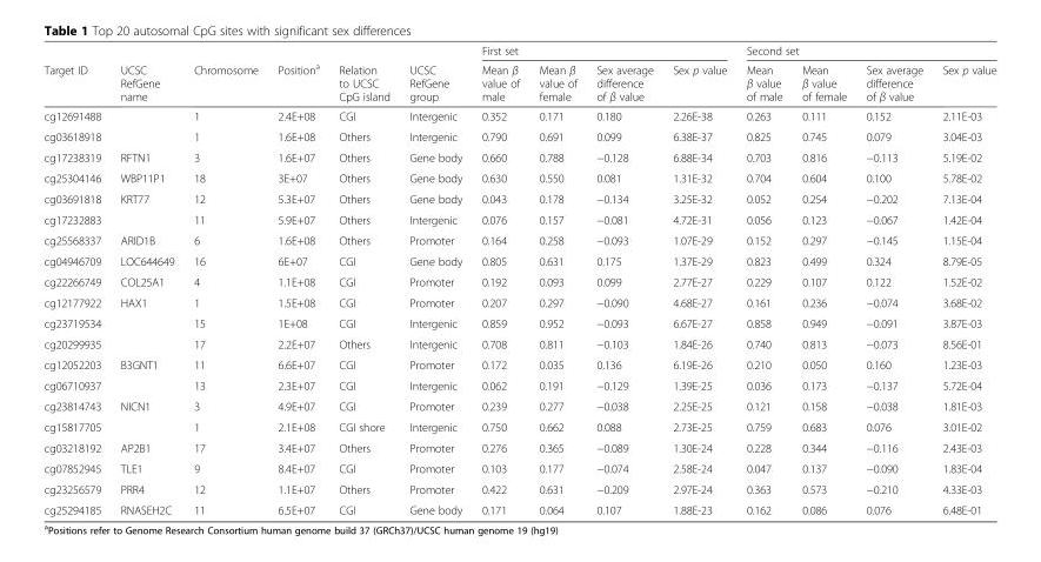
<table><thead><tr><td rowspan="2">Target ID</td><td rowspan="2">UCSC RefGene name</td><td rowspan="2">Chromosome</td><td rowspan="2">Position<sup>a</sup></td><td rowspan="2">Relation to UCSC CpG island</td><td rowspan="2">UCSC RefGene group</td><td colspan="4">First set</td><td colspan="4">Second set</td></tr><tr><td>Mean β value of male</td><td>Mean β value of female</td><td>Sex average difference of β value</td><td>Sex p value</td><td>Mean β value of male</td><td>Mean β value of female</td><td>Sex average difference of β value</td><td>Sex p value</td></tr></thead><tbody><tr><td>cg12691488</td><td></td><td>1</td><td>2.4E+08</td><td>CGI</td><td>Intergenic</td><td>0.352</td><td>0.171</td><td>0.180</td><td>2.26E-38</td><td>0.263</td><td>0.111</td><td>0.152</td><td>2.11E-03</td></tr><tr><td>cg03618918</td><td></td><td>1</td><td>1.6E+08</td><td>Others</td><td>Intergenic</td><td>0.790</td><td>0.691</td><td>0.099</td><td>6.38E-37</td><td>0.825</td><td>0.745</td><td>0.079</td><td>3.04E-03</td></tr><tr><td>cg17238319</td><td>RFTN1</td><td>3</td><td>1.6E+07</td><td>Others</td><td>Gene body</td><td>0.660</td><td>0.788</td><td>−0.128</td><td>6.88E-34</td><td>0.703</td><td>0.816</td><td>−0.113</td><td>5.19E-02</td></tr><tr><td>cg25304146</td><td>WBP11P1</td><td>18</td><td>3E+07</td><td>Others</td><td>Gene body</td><td>0.630</td><td>0.550</td><td>0.081</td><td>1.31E-32</td><td>0.704</td><td>0.604</td><td>0.100</td><td>5.78E-02</td></tr><tr><td>cg03691818</td><td>KRT77</td><td>12</td><td>5.3E+07</td><td>Others</td><td>Gene body</td><td>0.043</td><td>0.178</td><td>−0.134</td><td>3.25E-32</td><td>0.052</td><td>0.254</td><td>−0.202</td><td>7.13E-04</td></tr><tr><td>cg17232883</td><td></td><td>11</td><td>5.9E+07</td><td>Others</td><td>Intergenic</td><td>0.076</td><td>0.157</td><td>−0.081</td><td>4.72E-31</td><td>0.056</td><td>0.123</td><td>−0.067</td><td>1.42E-04</td></tr><tr><td>cg25568337</td><td>ARID1B</td><td>6</td><td>1.6E+08</td><td>Others</td><td>Promoter</td><td>0.164</td><td>0.258</td><td>−0.093</td><td>1.07E-29</td><td>0.152</td><td>0.297</td><td>−0.145</td><td>1.15E-04</td></tr><tr><td>cg04946709</td><td>LOC644649</td><td>16</td><td>6E+07</td><td>CGI</td><td>Gene body</td><td>0.805</td><td>0.631</td><td>0.175</td><td>1.37E-29</td><td>0.823</td><td>0.499</td><td>0.324</td><td>8.79E-05</td></tr><tr><td>cg22266749</td><td>COL25A1</td><td>4</td><td>1.1E+08</td><td>CGI</td><td>Promoter</td><td>0.192</td><td>0.093</td><td>0.099</td><td>2.77E-27</td><td>0.229</td><td>0.107</td><td>0.122</td><td>1.52E-02</td></tr><tr><td>cg12177922</td><td>HAX1</td><td>1</td><td>1.5E+08</td><td>CGI</td><td>Promoter</td><td>0.207</td><td>0.297</td><td>−0.090</td><td>4.68E-27</td><td>0.161</td><td>0.236</td><td>−0.074</td><td>3.68E-02</td></tr><tr><td>cg23719534</td><td></td><td>15</td><td>1E+08</td><td>CGI</td><td>Intergenic</td><td>0.859</td><td>0.952</td><td>−0.093</td><td>6.67E-27</td><td>0.858</td><td>0.949</td><td>−0.091</td><td>3.87E-03</td></tr><tr><td>cg20299935</td><td></td><td>17</td><td>2.2E+07</td><td>Others</td><td>Intergenic</td><td>0.708</td><td>0.811</td><td>−0.103</td><td>1.84E-26</td><td>0.740</td><td>0.813</td><td>−0.073</td><td>8.56E-01</td></tr><tr><td>cg12052203</td><td>B3GNT1</td><td>11</td><td>6.6E+07</td><td>CGI</td><td>Promoter</td><td>0.172</td><td>0.035</td><td>0.136</td><td>6.19E-26</td><td>0.210</td><td>0.050</td><td>0.160</td><td>1.23E-03</td></tr><tr><td>cg06710937</td><td></td><td>13</td><td>2.3E+07</td><td>CGI</td><td>Intergenic</td><td>0.062</td><td>0.191</td><td>−0.129</td><td>1.39E-25</td><td>0.036</td><td>0.173</td><td>−0.137</td><td>5.72E-04</td></tr><tr><td>cg23814743</td><td>NICN1</td><td>3</td><td>4.9E+07</td><td>CGI</td><td>Promoter</td><td>0.239</td><td>0.277</td><td>−0.038</td><td>2.25E-25</td><td>0.121</td><td>0.158</td><td>−0.038</td><td>1.81E-03</td></tr><tr><td>cg15817705</td><td></td><td>1</td><td>2.1E+08</td><td>CGI shore</td><td>Intergenic</td><td>0.750</td><td>0.662</td><td>0.088</td><td>2.73E-25</td><td>0.759</td><td>0.683</td><td>0.076</td><td>3.01E-02</td></tr><tr><td>cg03218192</td><td>AP2B1</td><td>17</td><td>3.4E+07</td><td>Others</td><td>Promoter</td><td>0.276</td><td>0.365</td><td>−0.089</td><td>1.30E-24</td><td>0.228</td><td>0.344</td><td>−0.116</td><td>2.43E-03</td></tr><tr><td>cg07852945</td><td>TLE1</td><td>9</td><td>8.4E+07</td><td>CGI</td><td>Promoter</td><td>0.103</td><td>0.177</td><td>−0.074</td><td>2.58E-24</td><td>0.047</td><td>0.137</td><td>−0.090</td><td>1.83E-04</td></tr><tr><td>cg23256579</td><td>PRR4</td><td>12</td><td>1.1E+07</td><td>Others</td><td>Promoter</td><td>0.422</td><td>0.631</td><td>−0.209</td><td>2.97E-24</td><td>0.363</td><td>0.573</td><td>−0.210</td><td>4.33E-03</td></tr><tr><td>cg25294185</td><td>RNASEH2C</td><td>11</td><td>6.5E+07</td><td>CGI</td><td>Gene body</td><td>0.171</td><td>0.064</td><td>0.107</td><td>1.88E-23</td><td>0.162</td><td>0.086</td><td>0.076</td><td>6.48E-01</td></tr></tbody></table>